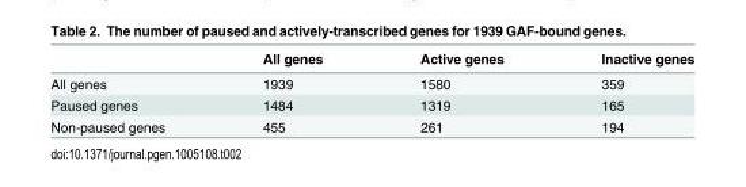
<table><thead><tr><td></td><td>All genes</td><td>Active genes</td><td>Inactive genes</td></tr></thead><tbody><tr><td>All genes</td><td>1939</td><td>1580</td><td>359</td></tr><tr><td>Paused genes</td><td>1484</td><td>1319</td><td>165</td></tr><tr><td>Non-paused genes</td><td>455</td><td>261</td><td>194</td></tr></tbody></table>